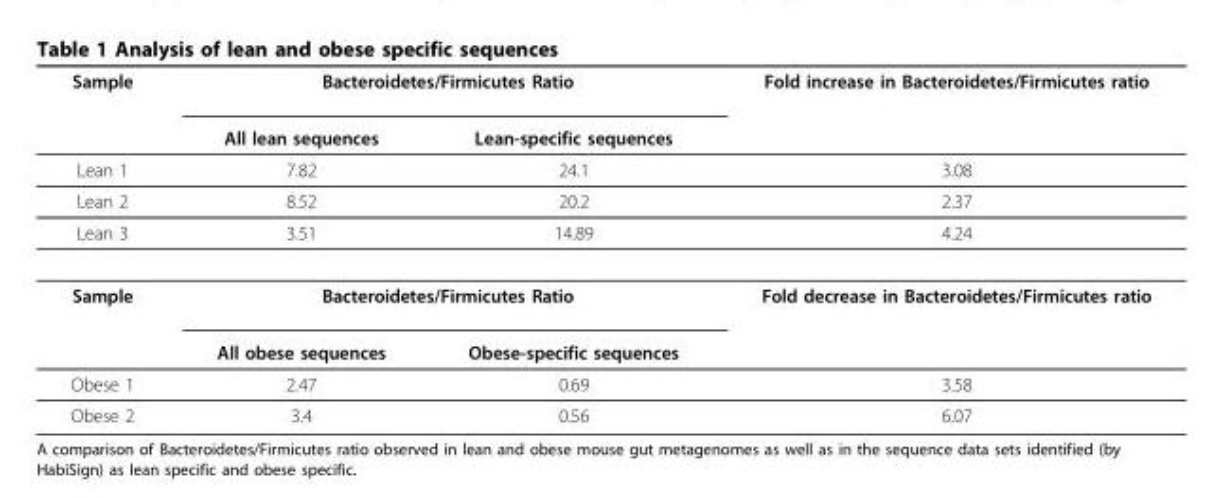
<table><thead><tr><td rowspan="2">Sample</td><td colspan="2">Bacteroidetes/Firmicutes Ratio</td><td rowspan="2">Fold increase in Bacteroidetes/Firmicutes ratio</td></tr><tr><td>All lean sequences</td><td>Lean-specific sequences</td></tr></thead><tbody><tr><td>Lean 1</td><td>7.82</td><td>24.1</td><td>3.08</td></tr><tr><td>Lean 2</td><td>8.52</td><td>20.2</td><td>2.37</td></tr><tr><td>Lean 3</td><td>3.51</td><td>14.89</td><td>4.24</td></tr><tr><td rowspan="2">Sample</td><td colspan="2">Bacteroidetes/Firmicutes Ratio</td><td>Fold decrease in Bacteroidetes/Firmicutes ratio</td></tr><tr><td>All obese sequences</td><td>Obese-specific sequences</td><td></td></tr><tr><td>Obese 1</td><td>2.47</td><td>0.69</td><td>3.58</td></tr><tr><td>Obese 2</td><td>3.4</td><td>0.56</td><td>6.07</td></tr></tbody></table>